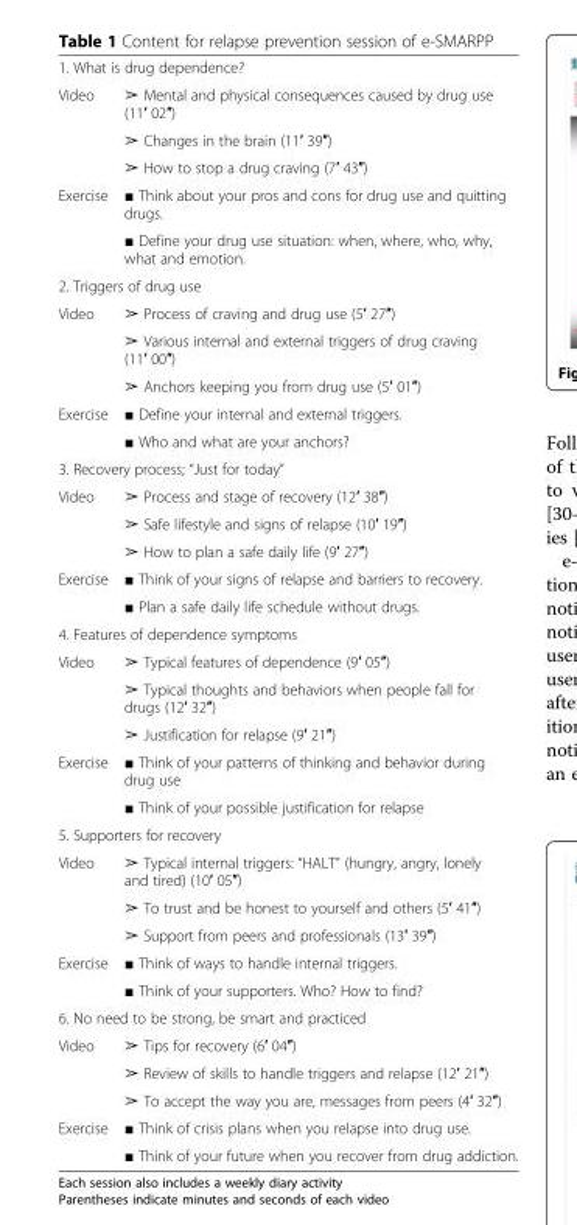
<table><tbody><tr><td colspan="2">1. What is drug dependence?</td></tr><tr><td rowspan="3">Video</td><td>➢ Mental and physical consequences caused by drug use (11′ 02″)</td></tr><tr><td>➢ Changes in the brain (11′ 39″)</td></tr><tr><td>➢ How to stop a drug craving (7′ 43″)</td></tr><tr><td rowspan="2">Exercise</td><td>■ Think about your pros and cons for drug use and quitting drugs.</td></tr><tr><td>■ Define your drug use situation: when, where, who, why, what and emotion.</td></tr><tr><td colspan="2">2. Triggers of drug use</td></tr><tr><td rowspan="3">Video</td><td>➢ Process of craving and drug use (5′ 27″)</td></tr><tr><td>➢ Various internal and external triggers of drug craving (11′ 00″)</td></tr><tr><td>➢ Anchors keeping you from drug use (5′ 01″)</td></tr><tr><td rowspan="2">Exercise</td><td>■ Define your internal and external triggers.</td></tr><tr><td>■ Who and what are your anchors?</td></tr><tr><td colspan="2">3. Recovery process; “Just for today”</td></tr><tr><td rowspan="3">Video</td><td>➢ Process and stage of recovery (12′ 38″)</td></tr><tr><td>➢ Safe lifestyle and signs of relapse (10′ 19″)</td></tr><tr><td>➢ How to plan a safe daily life (9′ 27″)</td></tr><tr><td rowspan="2">Exercise</td><td>■ Think of your signs of relapse and barriers to recovery.</td></tr><tr><td>■ Plan a safe daily life schedule without drugs.</td></tr><tr><td colspan="2">4. Features of dependence symptoms</td></tr><tr><td rowspan="3">Video</td><td>➢ Typical features of dependence (9′ 05″)</td></tr><tr><td>➢ Typical thoughts and behaviors when people fall for drugs (12′ 32″)</td></tr><tr><td>➢ Justification for relapse (9′ 21″)</td></tr><tr><td rowspan="2">Exercise</td><td>■ Think of your patterns of thinking and behavior during drug use</td></tr><tr><td>■ Think of your possible justification for relapse</td></tr><tr><td colspan="2">5. Supporters for recovery</td></tr><tr><td rowspan="3">Video</td><td>➢ Typical internal triggers: “HALT” (hungry, angry, lonely and tired) (10′ 05″)</td></tr><tr><td>➢ To trust and be honest to yourself and others (5′ 41″)</td></tr><tr><td>➢ Support from peers and professionals (13′ 39″)</td></tr><tr><td rowspan="2">Exercise</td><td>■ Think of ways to handle internal triggers.</td></tr><tr><td>■ Think of your supporters. Who? How to find?</td></tr><tr><td colspan="2">6. No need to be strong, be smart and practiced</td></tr><tr><td rowspan="3">Video</td><td>➢ Tips for recovery (6′ 04″)</td></tr><tr><td>➢ Review of skills to handle triggers and relapse (12′ 21″)</td></tr><tr><td>➢ To accept the way you are, messages from peers (4′ 32″)</td></tr><tr><td rowspan="2">Exercise</td><td>■ Think of crisis plans when you relapse into drug use.</td></tr><tr><td>■ Think of your future when you recover from drug addiction.</td></tr></tbody></table>